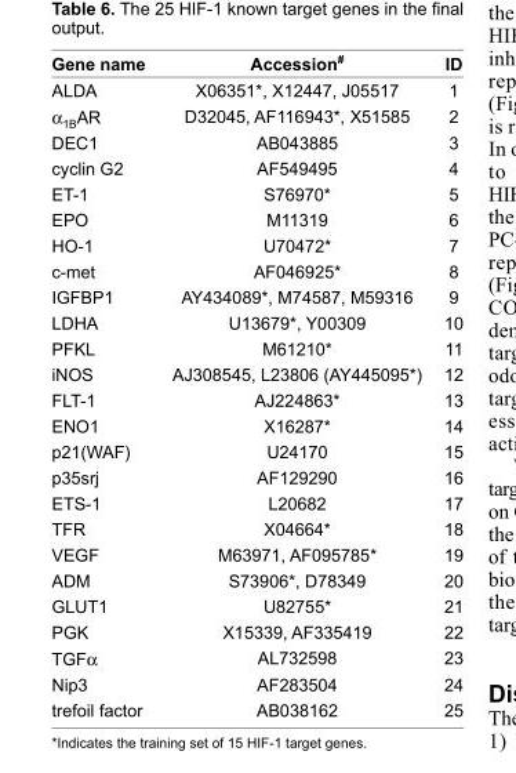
<table><thead><tr><td>Gene name</td><td>Accession<sup>#</sup></td><td>ID</td></tr></thead><tbody><tr><td>ALDA</td><td>X06351*, X12447, J05517</td><td>1</td></tr><tr><td>α<sub>1B</sub>AR</td><td>D32045, AF116943*, X51585</td><td>2</td></tr><tr><td>DEC1</td><td>AB043885</td><td>3</td></tr><tr><td>cyclin G2</td><td>AF549495</td><td>4</td></tr><tr><td>ET-1</td><td>S76970*</td><td>5</td></tr><tr><td>EPO</td><td>M11319</td><td>6</td></tr><tr><td>HO-1</td><td>U70472*</td><td>7</td></tr><tr><td>c-met</td><td>AF046925*</td><td>8</td></tr><tr><td>IGFBP1</td><td>AY434089*, M74587, M59316</td><td>9</td></tr><tr><td>LDHA</td><td>U13679*, Y00309</td><td>10</td></tr><tr><td>PFKL</td><td>M61210*</td><td>11</td></tr><tr><td>iNOS</td><td>AJ308545, L23806 (AY445095*)</td><td>12</td></tr><tr><td>FLT-1</td><td>AJ224863*</td><td>13</td></tr><tr><td>ENO1</td><td>X16287*</td><td>14</td></tr><tr><td>p21(WAF)</td><td>U24170</td><td>15</td></tr><tr><td>p35srj</td><td>AF129290</td><td>16</td></tr><tr><td>ETS-1</td><td>L20682</td><td>17</td></tr><tr><td>TFR</td><td>X04664*</td><td>18</td></tr><tr><td>VEGF</td><td>M63971, AF095785*</td><td>19</td></tr><tr><td>ADM</td><td>S73906*, D78349</td><td>20</td></tr><tr><td>GLUT1</td><td>U82755*</td><td>21</td></tr><tr><td>PGK</td><td>X15339, AF335419</td><td>22</td></tr><tr><td>TGFα</td><td>AL732598</td><td>23</td></tr><tr><td>Nip3</td><td>AF283504</td><td>24</td></tr><tr><td>trefoil factor</td><td>AB038162</td><td>25</td></tr></tbody></table>